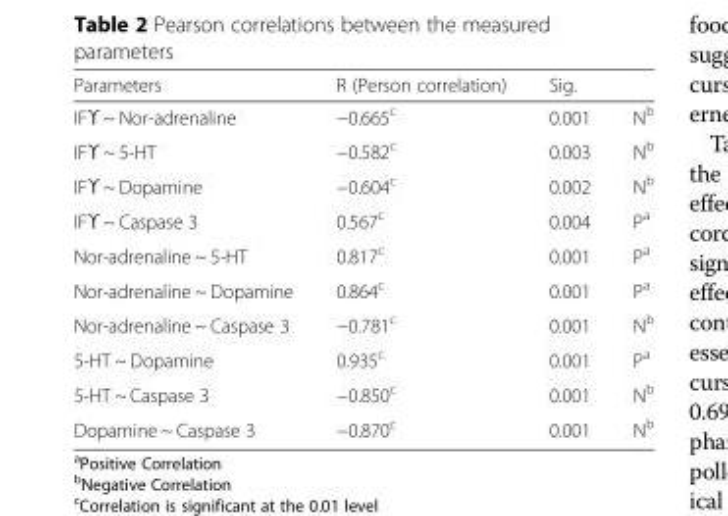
<table><thead><tr><td>Parameters</td><td>R (Person correlation)</td><td>Sig.</td><td></td></tr></thead><tbody><tr><td>IFϒ ~ Nor-adrenaline</td><td>−0.665<sup>c</sup></td><td>0.001</td><td>N<sup>b</sup></td></tr><tr><td>IFϒ ~ 5-HT</td><td>−0.582<sup>c</sup></td><td>0.003</td><td>N<sup>b</sup></td></tr><tr><td>IFϒ ~ Dopamine</td><td>−0.604<sup>c</sup></td><td>0.002</td><td>N<sup>b</sup></td></tr><tr><td>IFϒ ~ Caspase 3</td><td>0.567<sup>c</sup></td><td>0.004</td><td>P<sup>a</sup></td></tr><tr><td>Nor-adrenaline ~ 5-HT</td><td>0.817<sup>c</sup></td><td>0.001</td><td>P<sup>a</sup></td></tr><tr><td>Nor-adrenaline ~ Dopamine</td><td>0.864<sup>c</sup></td><td>0.001</td><td>P<sup>a</sup></td></tr><tr><td>Nor-adrenaline ~ Caspase 3</td><td>−0.781<sup>c</sup></td><td>0.001</td><td>N<sup>b</sup></td></tr><tr><td>5-HT ~ Dopamine</td><td>0.935<sup>c</sup></td><td>0.001</td><td>P<sup>a</sup></td></tr><tr><td>5-HT ~ Caspase 3</td><td>−0.850<sup>c</sup></td><td>0.001</td><td>N<sup>b</sup></td></tr><tr><td>Dopamine ~ Caspase 3</td><td>−0.870<sup>c</sup></td><td>0.001</td><td>N<sup>b</sup></td></tr></tbody></table>